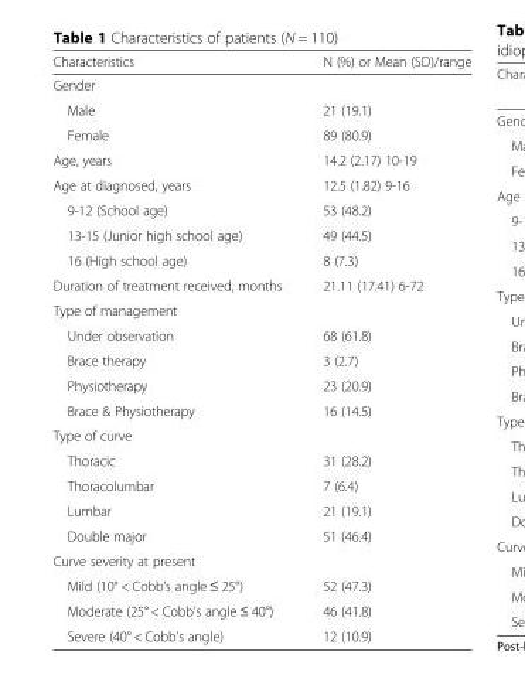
<table><thead><tr><td>Characteristics</td><td>N (%) or Mean (SD)/range</td></tr></thead><tbody><tr><td colspan="2">Gender</td></tr><tr><td>Male</td><td>21 (19.1)</td></tr><tr><td>Female</td><td>89 (80.9)</td></tr><tr><td>Age, years</td><td>14.2 (2.17) 10-19</td></tr><tr><td>Age at diagnosed, years</td><td>12.5 (1.82) 9-16</td></tr><tr><td>9-12 (School age)</td><td>53 (48.2)</td></tr><tr><td>13-15 (Junior high school age)</td><td>49 (44.5)</td></tr><tr><td>16 (High school age)</td><td>8 (7.3)</td></tr><tr><td>Duration of treatment received, months</td><td>21.11 (17.41) 6-72</td></tr><tr><td colspan="2">Type of management</td></tr><tr><td>Under observation</td><td>68 (61.8)</td></tr><tr><td>Brace therapy</td><td>3 (2.7)</td></tr><tr><td>Physiotherapy</td><td>23 (20.9)</td></tr><tr><td>Brace &amp; Physiotherapy</td><td>16 (14.5)</td></tr><tr><td colspan="2">Type of curve</td></tr><tr><td>Thoracic</td><td>31 (28.2)</td></tr><tr><td>Thoracolumbar</td><td>7 (6.4)</td></tr><tr><td>Lumbar</td><td>21 (19.1)</td></tr><tr><td>Double major</td><td>51 (46.4)</td></tr><tr><td colspan="2">Curve severity at present</td></tr><tr><td>Mild (10° &lt; Cobb’s angle ≤ 25°)</td><td>52 (47.3)</td></tr><tr><td>Moderate (25° &lt; Cobb’s angle ≤ 40°)</td><td>46 (41.8)</td></tr><tr><td>Severe (40° &lt; Cobb’s angle)</td><td>12 (10.9)</td></tr></tbody></table>